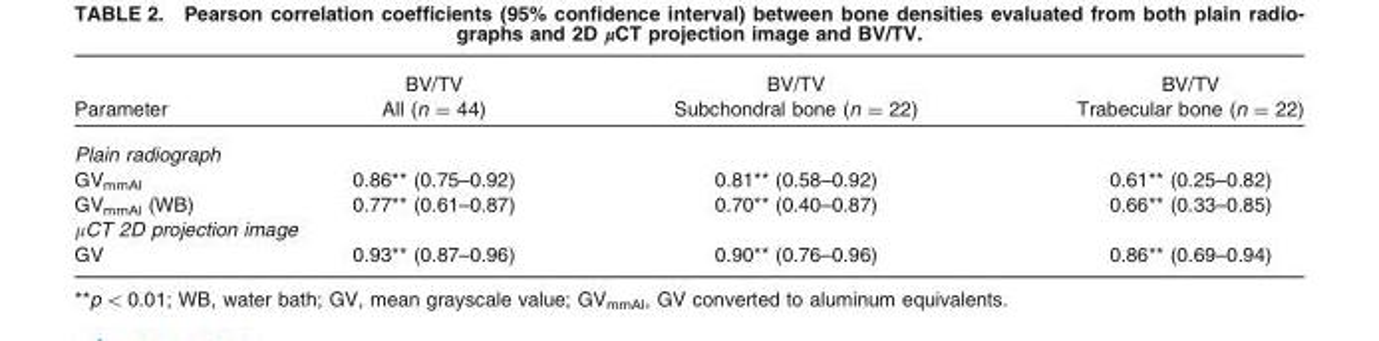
<table><thead><tr><td rowspan="2">Parameter</td><td rowspan="2">BV/TV All (n = 44)</td><td rowspan="2">BV/TV Subchondral bone (n = 22)</td><td rowspan="2">BV/TV Trabecular bone (n = 22)</td></tr><tr></tr></thead><tbody><tr><td colspan="4">Plain radiograph</td></tr><tr><td>GV<sub>mmAl</sub></td><td>0.86** (0.75–0.92)</td><td>0.81** (0.58–0.92)</td><td>0.61** (0.25–0.82)</td></tr><tr><td>GV<sub>mmAl</sub> (WB)</td><td>0.77** (0.61–0.87)</td><td>0.70** (0.40–0.87)</td><td>0.66** (0.33–0.85)</td></tr><tr><td colspan="4">µCT 2D projection image</td></tr><tr><td>GV</td><td>0.93** (0.87–0.96)</td><td>0.90** (0.76–0.96)</td><td>0.86** (0.69–0.94)</td></tr></tbody></table>